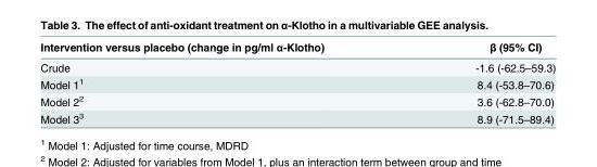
<table><thead><tr><td>Intervention versus placebo (change in pg/ml α-Klotho)</td><td>β (95% CI)</td></tr></thead><tbody><tr><td>Crude</td><td>-1.6 (-62.5–59.3)</td></tr><tr><td>Model 1<sup>1</sup></td><td>8.4 (-53.8–70.6)</td></tr><tr><td>Model 2<sup>2</sup></td><td>3.6 (-62.8–70.0)</td></tr><tr><td>Model 3<sup>3</sup></td><td>8.9 (-71.5–89.4)</td></tr></tbody></table>